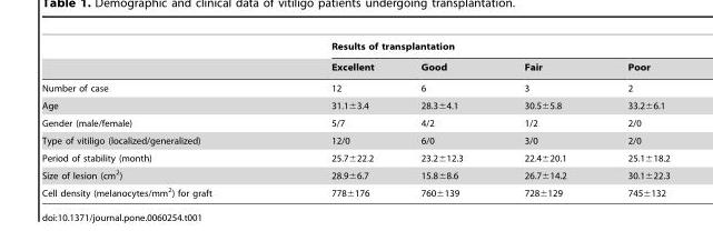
<table><thead><tr><td rowspan="2"></td><td colspan="4">Results of transplantation</td></tr><tr><td>Excellent</td><td>Good</td><td>Fair</td><td>Poor</td></tr></thead><tbody><tr><td>Number of case</td><td>12</td><td>6</td><td>3</td><td>2</td></tr><tr><td>Age</td><td>31.1±3.4</td><td>28.3±4.1</td><td>30.5±5.8</td><td>33.2±6.1</td></tr><tr><td>Gender (male/female)</td><td>5/7</td><td>4/2</td><td>1/2</td><td>2/0</td></tr><tr><td>Type of vitiligo (localized/generalized)</td><td>12/0</td><td>6/0</td><td>3/0</td><td>2/0</td></tr><tr><td>Period of stability (month)</td><td>25.7±22.2</td><td>23.2±12.3</td><td>22.4±20.1</td><td>25.1±18.2</td></tr><tr><td>Size of lesion (cm<sup>2</sup>)</td><td>28.9±6.7</td><td>15.8±8.6</td><td>26.7±14.2</td><td>30.1±22.3</td></tr><tr><td>Cell density (melanocytes/mm<sup>2</sup>) for graft</td><td>778±176</td><td>760±139</td><td>728±129</td><td>745±132</td></tr></tbody></table>